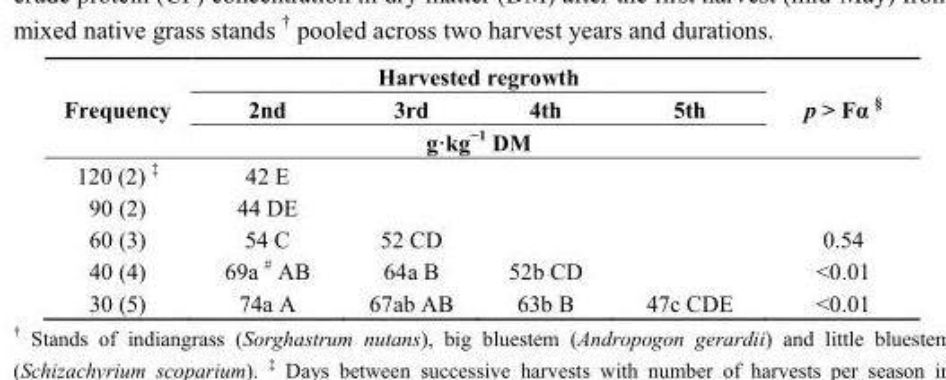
<table><thead><tr><td rowspan="3">Frequency</td><td colspan="4">Harvested regrowth</td><td rowspan="3">p &gt; Fα <sup>§</sup></td></tr><tr><td>2nd</td><td>3rd</td><td>4th</td><td>5th</td></tr><tr><td colspan="4">g·kg<sup>−1</sup> DM</td></tr></thead><tbody><tr><td>120 (2) <sup>‡</sup></td><td>42 E</td><td></td><td></td><td></td><td></td></tr><tr><td>90 (2)</td><td>44 DE</td><td></td><td></td><td></td><td></td></tr><tr><td>60 (3)</td><td>54 C</td><td>52 CD</td><td></td><td></td><td>0.54</td></tr><tr><td>40 (4)</td><td>69a <sup>#</sup> AB</td><td>64a B</td><td>52b CD</td><td></td><td>&lt;0.01</td></tr><tr><td>30 (5)</td><td>74a A</td><td>67ab AB</td><td>63b B</td><td>47c CDE</td><td>&lt;0.01</td></tr></tbody></table>